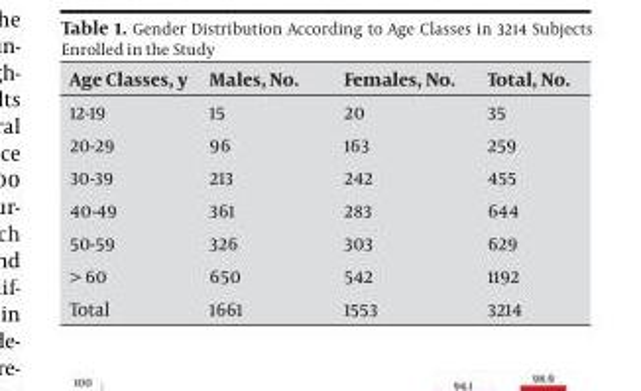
<table><thead><tr><td>Age Classes, y</td><td>Males, No.</td><td>Females, No.</td><td>Total, No.</td></tr></thead><tbody><tr><td>12-19</td><td>15</td><td>20</td><td>35</td></tr><tr><td>20-29</td><td>96</td><td>163</td><td>259</td></tr><tr><td>30-39</td><td>213</td><td>242</td><td>455</td></tr><tr><td>40-49</td><td>361</td><td>283</td><td>644</td></tr><tr><td>50-59</td><td>326</td><td>303</td><td>629</td></tr><tr><td>&gt; 60</td><td>650</td><td>542</td><td>1192</td></tr><tr><td>Total</td><td>1661</td><td>1553</td><td>3214</td></tr></tbody></table>